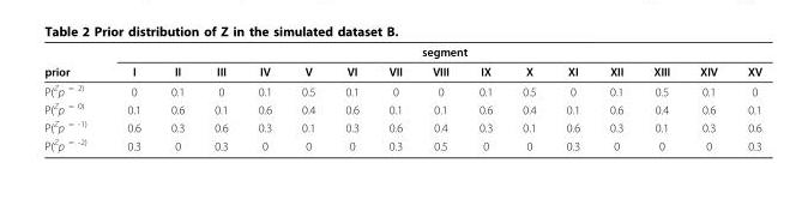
<table><thead><tr><td rowspan="2">prior</td><td colspan="15">segment</td></tr><tr><td>I</td><td>II</td><td>III</td><td>IV</td><td>V</td><td>VI</td><td>VII</td><td>VIII</td><td>IX</td><td>X</td><td>XI</td><td>XII</td><td>XIII</td><td>XIV</td><td>XV</td></tr></thead><tbody><tr><td>P(<sup>Z</sup>p <sup>= 2)</sup></td><td>0</td><td>0.1</td><td>0</td><td>0.1</td><td>0.5</td><td>0.1</td><td>0</td><td>0</td><td>0.1</td><td>0.5</td><td>0</td><td>0.1</td><td>0.5</td><td>0.1</td><td>0</td></tr><tr><td>P(<sup>Z</sup>p <sup>= 0)</sup></td><td>0.1</td><td>0.6</td><td>0.1</td><td>0.6</td><td>0.4</td><td>0.6</td><td>0.1</td><td>0.1</td><td>0.6</td><td>0.4</td><td>0.1</td><td>0.6</td><td>0.4</td><td>0.6</td><td>0.1</td></tr><tr><td>P(<sup>Z</sup>p <sup>= -1)</sup></td><td>0.6</td><td>0.3</td><td>0.6</td><td>0.3</td><td>0.1</td><td>0.3</td><td>0.6</td><td>0.4</td><td>0.3</td><td>0.1</td><td>0.6</td><td>0.3</td><td>0.1</td><td>0.3</td><td>0.6</td></tr><tr><td>P(<sup>Z</sup>p <sup>= -2)</sup></td><td>0.3</td><td>0</td><td>0.3</td><td>0</td><td>0</td><td>0</td><td>0.3</td><td>0.5</td><td>0</td><td>0</td><td>0.3</td><td>0</td><td>0</td><td>0</td><td>0.3</td></tr></tbody></table>